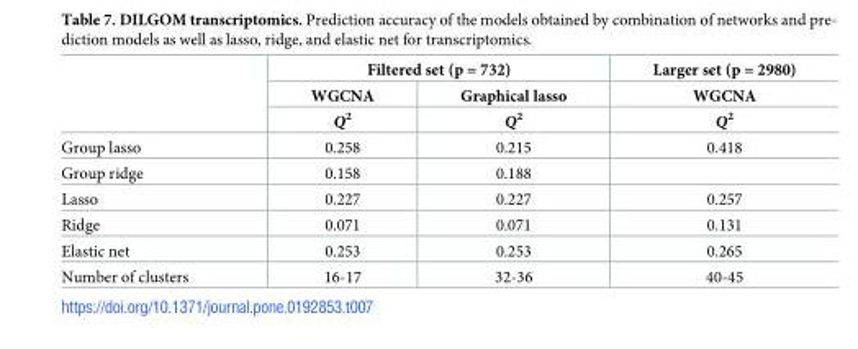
<table><thead><tr><td rowspan="3"></td><td colspan="2">Filtered set (p = 732)</td><td rowspan="3">Larger set (p = 2980) WGCNA Q<sup>2</sup></td></tr><tr><td rowspan="2">WGCNA Q<sup>2</sup></td><td rowspan="2">Graphical lasso Q<sup>2</sup></td></tr><tr></tr></thead><tbody><tr><td>Group lasso</td><td>0.258</td><td>0.215</td><td>0.418</td></tr><tr><td>Group ridge</td><td>0.158</td><td>0.188</td><td></td></tr><tr><td>Lasso</td><td>0.227</td><td>0.227</td><td>0.257</td></tr><tr><td>Ridge</td><td>0.071</td><td>0.071</td><td>0.131</td></tr><tr><td>Elastic net</td><td>0.253</td><td>0.253</td><td>0.265</td></tr><tr><td>Number of clusters</td><td>16-17</td><td>32-36</td><td>40-45</td></tr></tbody></table>